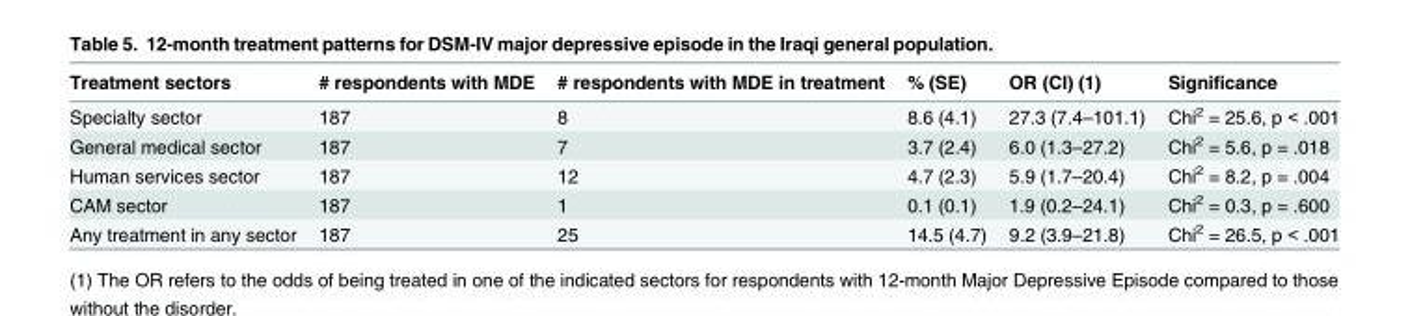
<table><thead><tr><td>Treatment sectors</td><td># respondents with MDE</td><td># respondents with MDE in treatment</td><td>% (SE)</td><td>OR (CI) (1)</td><td>Significance</td></tr></thead><tbody><tr><td>Specialty sector</td><td>187</td><td>8</td><td>8.6 (4.1)</td><td>27.3 (7.4–101.1)</td><td>Chi<sup>2</sup> = 25.6, p &lt; .001</td></tr><tr><td>General medical sector</td><td>187</td><td>7</td><td>3.7 (2.4)</td><td>6.0 (1.3–27.2)</td><td>Chi<sup>2</sup> = 5.6, p = .018</td></tr><tr><td>Human services sector</td><td>187</td><td>12</td><td>4.7 (2.3)</td><td>5.9 (1.7–20.4)</td><td>Chi<sup>2</sup> = 8.2, p = .004</td></tr><tr><td>CAM sector</td><td>187</td><td>1</td><td>0.1 (0.1)</td><td>1.9 (0.2–24.1)</td><td>Chi<sup>2</sup> = 0.3, p = .600</td></tr><tr><td>Any treatment in any sector</td><td>187</td><td>25</td><td>14.5 (4.7)</td><td>9.2 (3.9–21.8)</td><td>Chi<sup>2</sup> = 26.5, p &lt; .001</td></tr></tbody></table>